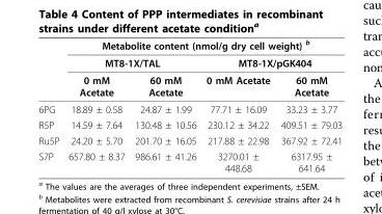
<table><thead><tr><td rowspan="3"></td><td colspan="4">Metabolite content (nmol/g dry cell weight) <sup>b</sup></td></tr><tr><td colspan="2">MT8-1X/TAL</td><td colspan="2">MT8-1X/pGK404</td></tr><tr><td>0 mM Acetate</td><td>60 mM Acetate</td><td>0 mM Acetate</td><td>60 mM Acetate</td></tr></thead><tbody><tr><td>6PG</td><td>18.89 ± 0.58</td><td>24.87 ± 1.99</td><td>77.71 ± 16.09</td><td>33.23 ± 3.77</td></tr><tr><td>R5P</td><td>14.59 ± 7.64</td><td>130.48 ± 10.56</td><td>230.12 ± 34.22</td><td>409.51 ± 79.03</td></tr><tr><td>Ru5P</td><td>24.20 ± 5.70</td><td>201.70 ± 16.05</td><td>217.88 ± 22.98</td><td>367.92 ± 72.41</td></tr><tr><td>S7P</td><td>657.80 ± 8.37</td><td>986.61 ± 41.26</td><td>3270.01 ± 448.68</td><td>6317.95 ± 641.64</td></tr></tbody></table>